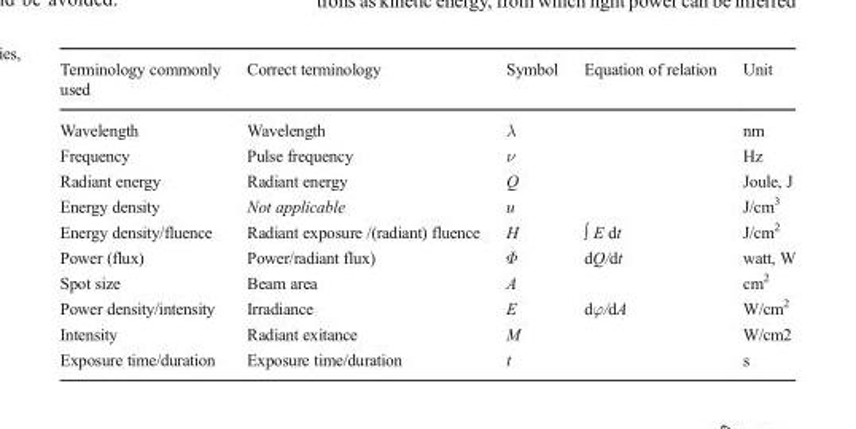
<table><thead><tr><td>Terminology commonly used</td><td>Correct terminology</td><td>Symbol</td><td>Equation of relation</td><td>Unit</td></tr></thead><tbody><tr><td>Wavelength</td><td>Wavelength</td><td>λ</td><td></td><td>nm</td></tr><tr><td>Frequency</td><td>Pulse frequency</td><td>ν</td><td></td><td>Hz</td></tr><tr><td>Radiant energy</td><td>Radiant energy</td><td>Q</td><td></td><td>Joule, J</td></tr><tr><td>Energy density</td><td>Not applicable</td><td>u</td><td></td><td>J/cm<sup>3</sup></td></tr><tr><td>Energy density/fluence</td><td>Radiant exposure /(radiant) fluence</td><td>H</td><td>∫ E dt</td><td>J/cm<sup>2</sup></td></tr><tr><td>Power (flux)</td><td>Power/radiant flux)</td><td>Φ</td><td>dQ/dt</td><td>watt, W</td></tr><tr><td>Spot size</td><td>Beam area</td><td>A</td><td></td><td>cm<sup>2</sup></td></tr><tr><td>Power density/intensity</td><td>Irradiance</td><td>E</td><td>dφ/dA</td><td>W/cm<sup>2</sup></td></tr><tr><td>Intensity</td><td>Radiant exitance</td><td>M</td><td></td><td>W/cm2</td></tr><tr><td>Exposure time/duration</td><td>Exposure time/duration</td><td>t</td><td></td><td>s</td></tr></tbody></table>